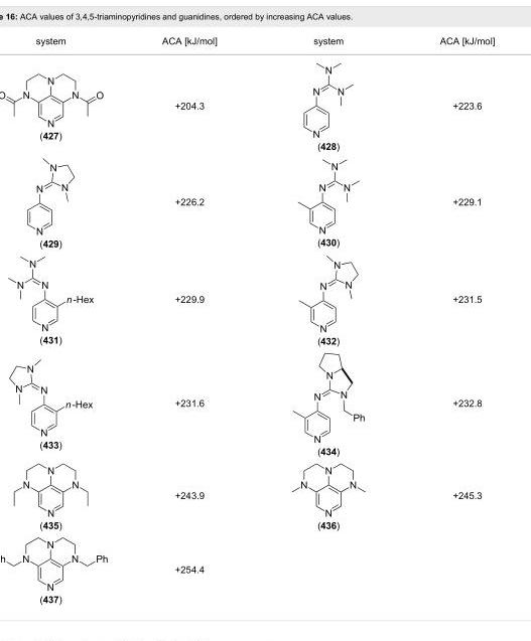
<table><tbody><tr><td>system</td><td>ACA [kJ/mol]</td><td>system</td><td>ACA [kJ/mol]</td></tr><tr><td>(427)</td><td>+204.3</td><td>(428)</td><td>+223.6</td></tr><tr><td>(429)</td><td>+226.2</td><td>(430)</td><td>+229.1</td></tr><tr><td>(431)</td><td>+229.9</td><td>(432)</td><td>+231.5</td></tr><tr><td>(433)</td><td>+231.6</td><td>(434)</td><td>+232.8</td></tr><tr><td>(435)</td><td>+243.9</td><td>(436)</td><td>+245.3</td></tr><tr><td>(437)</td><td>+254.4</td><td></td><td></td></tr></tbody></table>